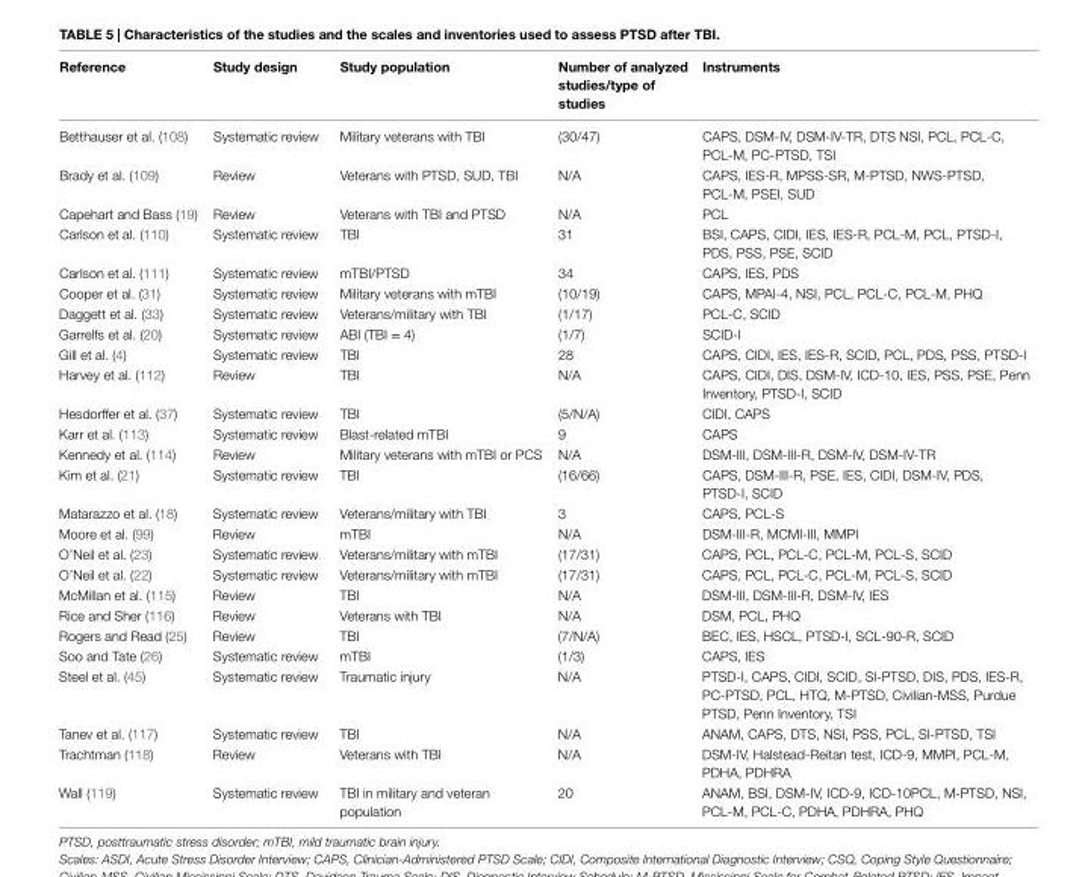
<table><thead><tr><td>Reference</td><td>Study design</td><td>Study population</td><td>Number of analyzed studies/type of studies</td><td>instruments</td></tr></thead><tbody><tr><td>Betthauser et al. (108)</td><td>Systematic review</td><td>Military veterans with TBI</td><td>(30/47)</td><td>CAPS, DSM-IV, DSM-IV-TR, DTS NSI, PCL, PCL-C, PCL-M, PC-PTSD, TSI</td></tr><tr><td>Brady et al. (109)</td><td>Review</td><td>Veterans with PTSD, SUD, TBI</td><td>N/A</td><td>CAPS, IES-R, MPSS-SR, M-PTSD, NWS-PTSD, PCL-M, PSEI, SUD</td></tr><tr><td>Capehart and Bass (19)</td><td>Review</td><td>Veterans with TBI and PTSD</td><td>N/A</td><td>PCL</td></tr><tr><td>Carlson et al. (110)</td><td>Systematic review</td><td>TBI</td><td>31</td><td>BSI, CAPS, CIDI, IES, IES-R, PCL-M, PCL, PTSD-I, PDS, PSS, PSE, SCID</td></tr><tr><td>Carlson et al. (111)</td><td>Systematic review</td><td>mTBI/PTSD</td><td>34</td><td>CAPS, IES, PDS</td></tr><tr><td>Cooper et al. (31)</td><td>Systematic review</td><td>Military veterans with mTBI</td><td>(10/19)</td><td>CAPS, MPAI-4, NSI, PCL, PCL-C, PCL-M, PHQ</td></tr><tr><td>Daggett et al. (33)</td><td>Systematic review</td><td>Veterans/military with TBI</td><td>(1/17)</td><td>PCL-C, SCID</td></tr><tr><td>Garrelfs et al. (20)</td><td>Systematic review</td><td>ABI (TBI = 4)</td><td>(1/7)</td><td>SCID-I</td></tr><tr><td>Gill et al. (4)</td><td>Systematic review</td><td>TBI</td><td>28</td><td>CAPS, CIDI, IES, IES-R, SCID, PCL, PDS, PSS, PTSD-I</td></tr><tr><td>Harvey et al. (112)</td><td>Review</td><td>TBI</td><td>N/A</td><td>CAPS, CIDI, DIS, DSM-IV, ICD-10, IES, PSS, PSE, Penn Inventory, PTSD-I, SCID</td></tr><tr><td>Hesdorffer et al. (37)</td><td>Systematic review</td><td>TBI</td><td>(5/N/A)</td><td>CIDI, CAPS</td></tr><tr><td>Karr et al. (113)</td><td>Systematic review</td><td>Blast-related mTBI</td><td>9</td><td>CAPS</td></tr><tr><td>Kennedy et al. (114)</td><td>Review</td><td>Military veterans with mTBI or PCS</td><td>N/A</td><td>DSM-III, DSM-III-R, DSM-IV, DSM-IV-TR</td></tr><tr><td>Kim et al. (21)</td><td>Systematic review</td><td>TBI</td><td>(16/66)</td><td>CAPS, DSM-III-R, PSE, IES, CIDI, DSM-IV, PDS, PTSD-I, SCID</td></tr><tr><td>Matarazzo et al. (18)</td><td>Systematic review</td><td>Veterans/military with TBI</td><td>3</td><td>CAPS, PCL-S</td></tr><tr><td>Moore et al. (99)</td><td>Review</td><td>mTBI</td><td>N/A</td><td>DSM-III-R, MCMI-III, MMPI</td></tr><tr><td>O’Neil et al. (23)</td><td>Systematic review</td><td>Veterans/military with mTBI</td><td>(17/31)</td><td>CAPS, PCL, PCL-C, PCL-M, PCL-S, SCID</td></tr><tr><td>O’Neil et al. (22)</td><td>Systematic review</td><td>Veterans/military with mTBI</td><td>(17/31)</td><td>CAPS, PCL, PCL-C, PCL-M, PCL-S, SCID</td></tr><tr><td>McMillan et al. (115)</td><td>Review</td><td>TBI</td><td>N/A</td><td>DSM-III, DSM-III-R, DSM-IV, IES</td></tr><tr><td>Rice and Sher (116)</td><td>Review</td><td>Veterans with TBI</td><td>N/A</td><td>DSM, PCL, PHQ</td></tr><tr><td>Rogers and Read (25)</td><td>Review</td><td>TBI</td><td>(7/N/A)</td><td>BEC, IES, HSCL, PTSD-I, SCL-90-R, SCID</td></tr><tr><td>Soo and Tate (26)</td><td>Systematic review</td><td>mTBI</td><td>(1/3)</td><td>CAPS, IES</td></tr><tr><td>Steel et al. (45)</td><td>Systematic review</td><td>Traumatic injury</td><td>N/A</td><td>PTSD-I, CAPS, CIDI, SCID, SI-PTSD, DIS, PDS, IES-R, PC-PTSD, PCL, HTQ, M-PTSD, Civilian-MSS, Purdue PTSD, Penn Inventory, TSI</td></tr><tr><td>Tanev et al. (117)</td><td>Systematic review</td><td>TBI</td><td>N/A</td><td>ANAM, CAPS, DTS, NSI, PSS, PCL, SI-PTSD, TSI</td></tr><tr><td>Trachtman (118)</td><td>Review</td><td>Veterans with TBI</td><td>N/A</td><td>DSM-IV, Halstead-Reitan test, ICD-9, MMPI, PCL-M, PDHA, PDHRA</td></tr><tr><td>Wall (119)</td><td>Systematic review</td><td>TBI in military and veteran population</td><td>20</td><td>ANAM, BSI, DSM-IV, ICD-9, ICD-10PCL, M-PTSD, NSI, PCL-M, PCL-C, PDHA, PDHRA, PHQ</td></tr></tbody></table>